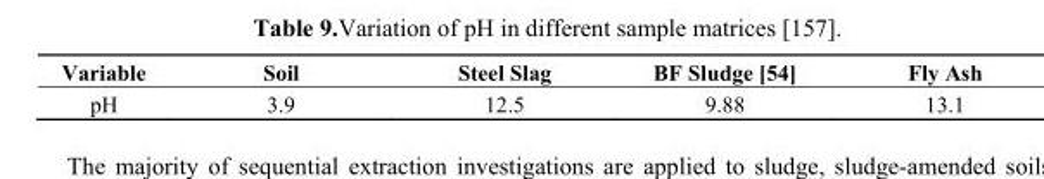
<table><thead><tr><td>Variable</td><td>Soil</td><td>Steel Slag</td><td>BF Sludge [54]</td><td>Fly Ash</td></tr></thead><tbody><tr><td>pH</td><td>3.9</td><td>12.5</td><td>9.88</td><td>13.1</td></tr></tbody></table>